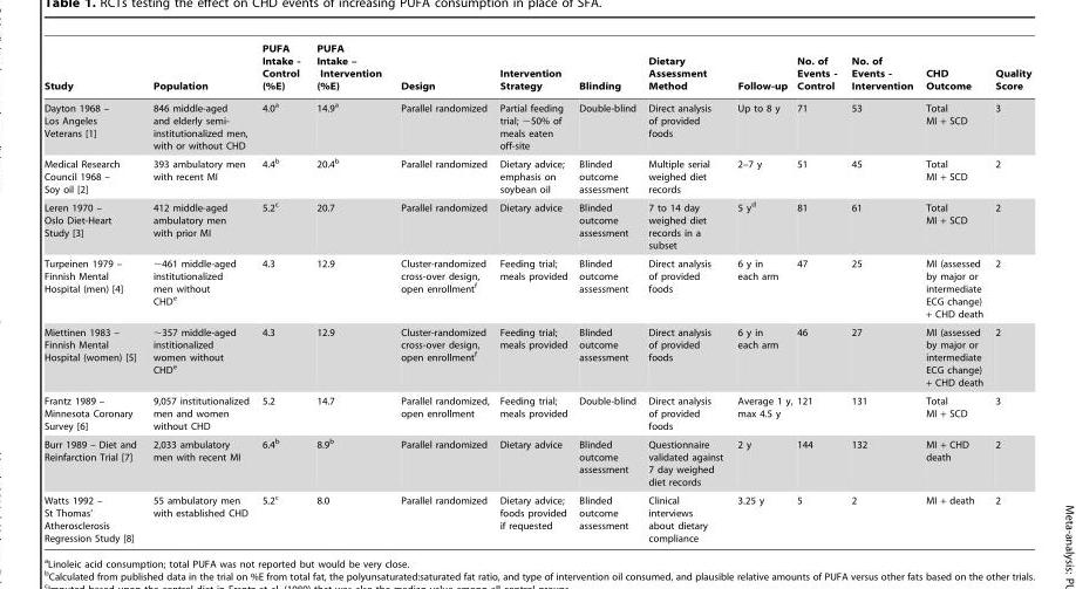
<table><thead><tr><td>Study</td><td>Population</td><td>PUFA Intake - Control (%E)</td><td>PUFA Intake – Intervention (%E)</td><td>Design</td><td>Intervention Strategy</td><td>Blinding</td><td>Dietary Assessment Method</td><td>Follow-up</td><td>No. of Events - Control</td><td>No. of Events - Intervention</td><td>CHD Outcome</td><td>Quality Score</td></tr></thead><tbody><tr><td>Dayton 1968 – Los Angeles Veterans [1]</td><td>846 middle-aged and elderly semi- institutionalized men, with or without CHD</td><td>4.0<sup>a</sup></td><td>14.9<sup>a</sup></td><td>Parallel randomized</td><td>Partial feeding trial; ∼50% of meals eaten off-site</td><td>Double-blind</td><td>Direct analysis of provided foods</td><td>Up to 8 y</td><td>71</td><td>53</td><td>Total MI + SCD</td><td>3</td></tr><tr><td>Medical Research Council 1968 – Soy oil [2]</td><td>393 ambulatory men with recent MI</td><td>4.4<sup>b</sup></td><td>20.4<sup>b</sup></td><td>Parallel randomized</td><td>Dietary advice; emphasis on soybean oil</td><td>Blinded outcome assessment</td><td>Multiple serial weighed diet records</td><td>2–7 y</td><td>51</td><td>45</td><td>Total MI + SCD</td><td>2</td></tr><tr><td>Leren 1970 – Oslo Diet-Heart Study [3]</td><td>412 middle-aged ambulatory men with prior MI</td><td>5.2<sup>c</sup></td><td>20.7</td><td>Parallel randomized</td><td>Dietary advice</td><td>Blinded outcome assessment</td><td>7 to 14 day weighed diet records in a subset</td><td>5 y<sup>d</sup></td><td>81</td><td>61</td><td>Total MI + SCD</td><td>2</td></tr><tr><td>Turpeinen 1979 – Finnish Mental Hospital (men) [4]</td><td>∼461 middle-aged institutionalized men without CHD<sup>e</sup></td><td>4.3</td><td>12.9</td><td>Cluster-randomized cross-over design, open enrollment<sup>f</sup></td><td>Feeding trial; meals provided</td><td>Blinded outcome assessment</td><td>Direct analysis of provided foods</td><td>6 y in each arm</td><td>47</td><td>25</td><td>MI (assessed by major or intermediate ECG change) + CHD death</td><td>2</td></tr><tr><td>Miettinen 1983 – Finnish Mental Hospital (women) [5]</td><td>∼357 middle-aged institionalized women without CHD<sup>e</sup></td><td>4.3</td><td>12.9</td><td>Cluster-randomized cross-over design, open enrollment<sup>f</sup></td><td>Feeding trial; meals provided</td><td>Blinded outcome assessment</td><td>Direct analysis of provided foods</td><td>6 y in each arm</td><td>46</td><td>27</td><td>MI (assessed by major or intermediate ECG change) + CHD death</td><td>2</td></tr><tr><td>Frantz 1989 – Minnesota Coronary Survey [6]</td><td>9,057 institutionalized men and women without CHD</td><td>5.2</td><td>14.7</td><td>Parallel randomized, open enrollment</td><td>Feeding trial; meals provided</td><td>Double-blind</td><td>Direct analysis of provided foods</td><td>Average 1 y, max 4.5 y</td><td>121</td><td>131</td><td>Total MI + SCD</td><td>3</td></tr><tr><td>Burr 1989 – Diet and Reinfarction Trial [7]</td><td>2,033 ambulatory men with recent MI</td><td>6.4<sup>b</sup></td><td>8.9<sup>b</sup></td><td>Parallel randomized</td><td>Dietary advice</td><td>Blinded outcome assessment</td><td>Questionnaire validated against 7 day weighed diet records</td><td>2 y</td><td>144</td><td>132</td><td>MI + CHD death</td><td>2</td></tr><tr><td>Watts 1992 – St Thomas’ Atherosclerosis Regression Study [8]</td><td>55 ambulatory men with established CHD</td><td>5.2<sup>c</sup></td><td>8.0</td><td>Parallel randomized</td><td>Dietary advice; foods provided if requested</td><td>Blinded outcome assessment</td><td>Clinical interviews about dietary compliance</td><td>3.25 y</td><td>5</td><td>2</td><td>MI + death</td><td>2</td></tr></tbody></table>